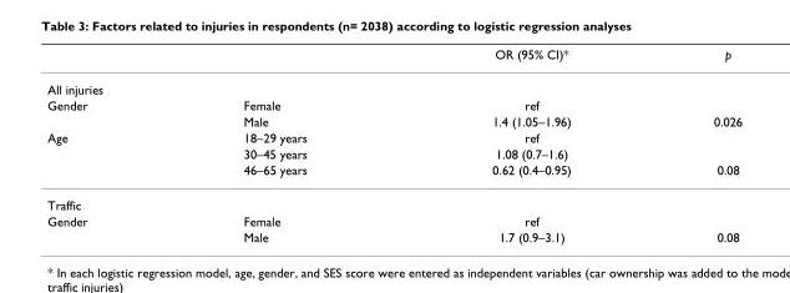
<table><thead><tr><td></td><td></td><td>OR (95% CI)*</td><td>p</td></tr></thead><tbody><tr><td colspan="4">All injuries</td></tr><tr><td rowspan="2">Gender</td><td>Female</td><td>ref</td><td></td></tr><tr><td>Male</td><td>1.4 (1.05–1.96)</td><td>0.026</td></tr><tr><td rowspan="3">Age</td><td>18–29 years</td><td>ref</td><td></td></tr><tr><td>30–45 years</td><td>1.08 (0.7–1.6)</td><td></td></tr><tr><td>46–65 years</td><td>0.62 (0.4–0.95)</td><td>0.08</td></tr><tr><td colspan="4">Traffic</td></tr><tr><td rowspan="2">Gender</td><td>Female</td><td>ref</td><td></td></tr><tr><td>Male</td><td>1.7 (0.9–3.1)</td><td>0.08</td></tr></tbody></table>